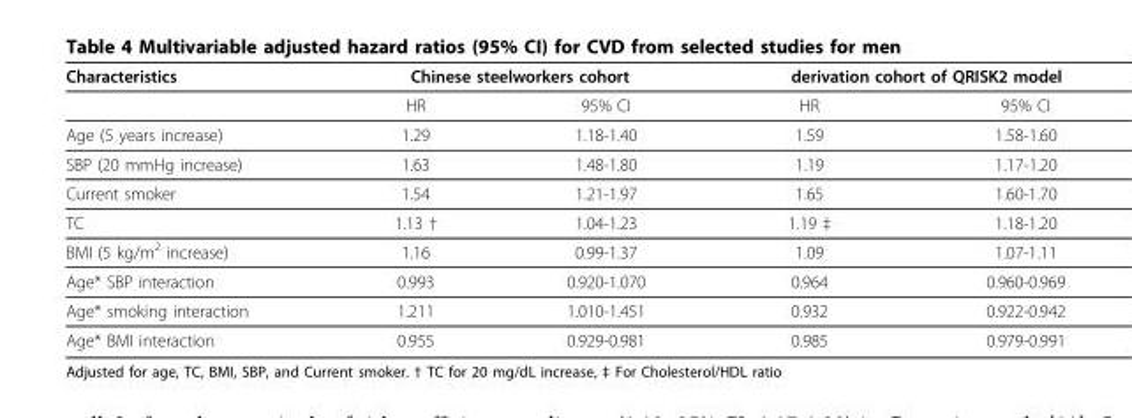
<table><thead><tr><td rowspan="2">Characteristics</td><td colspan="2">Chinese steelworkers cohort</td><td colspan="2">derivation cohort of QRISK2 model</td></tr><tr><td>HR</td><td>95% CI</td><td>HR</td><td>95% CI</td></tr></thead><tbody><tr><td>Age (5 years increase)</td><td>1.29</td><td>1.18-1.40</td><td>1.59</td><td>1.58-1.60</td></tr><tr><td>SBP (20 mmHg increase)</td><td>1.63</td><td>1.48-1.80</td><td>1.19</td><td>1.17-1.20</td></tr><tr><td>Current smoker</td><td>1.54</td><td>1.21-1.97</td><td>1.65</td><td>1.60-1.70</td></tr><tr><td>TC</td><td>1.13 †</td><td>1.04-1.23</td><td>1.19 ‡</td><td>1.18-1.20</td></tr><tr><td>BMI (5 kg/m<sup>2</sup> increase)</td><td>1.16</td><td>0.99-1.37</td><td>1.09</td><td>1.07-1.11</td></tr><tr><td>Age* SBP interaction</td><td>0.993</td><td>0.920-1.070</td><td>0.964</td><td>0.960-0.969</td></tr><tr><td>Age* smoking interaction</td><td>1.211</td><td>1.010-1.451</td><td>0.932</td><td>0.922-0.942</td></tr><tr><td>Age* BMI interaction</td><td>0.955</td><td>0.929-0.981</td><td>0.985</td><td>0.979-0.991</td></tr></tbody></table>